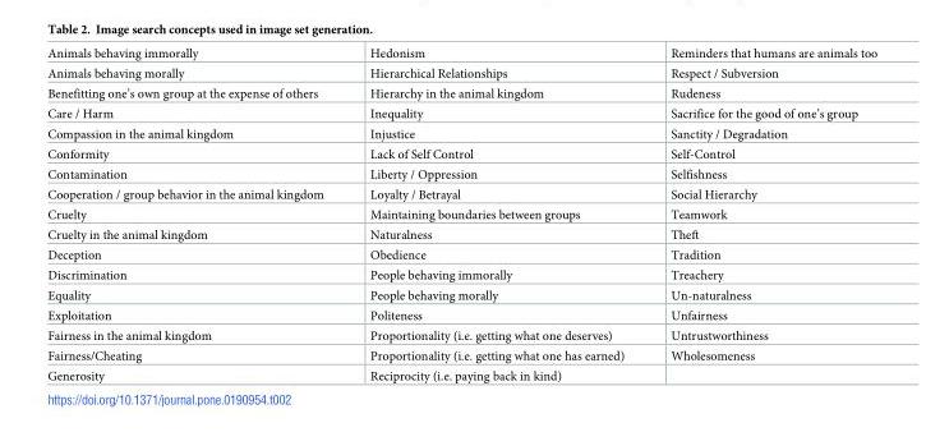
<table><tbody><tr><td>Animals behaving immorally</td><td>Hedonism</td><td>Reminders that humans are animals too</td></tr><tr><td>Animals behaving morally</td><td>Hierarchical Relationships</td><td>Respect / Subversion</td></tr><tr><td>Benefitting one’s own group at the expense of others</td><td>Hierarchy in the animal kingdom</td><td>Rudeness</td></tr><tr><td>Care / Harm</td><td>Inequality</td><td>Sacrifice for the good of one’s group</td></tr><tr><td>Compassion in the animal kingdom</td><td>Injustice</td><td>Sanctity / Degradation</td></tr><tr><td>Conformity</td><td>Lack of Self Control</td><td>Self-Control</td></tr><tr><td>Contamination</td><td>Liberty / Oppression</td><td>Selfishness</td></tr><tr><td>Cooperation / group behavior in the animal kingdom</td><td>Loyalty / Betrayal</td><td>Social Hierarchy</td></tr><tr><td>Cruelty</td><td>Maintaining boundaries between groups</td><td>Teamwork</td></tr><tr><td>Cruelty in the animal kingdom</td><td>Naturalness</td><td>Theft</td></tr><tr><td>Deception</td><td>Obedience</td><td>Tradition</td></tr><tr><td>Discrimination</td><td>People behaving immorally</td><td>Treachery</td></tr><tr><td>Equality</td><td>People behaving morally</td><td>Un-naturalness</td></tr><tr><td>Exploitation</td><td>Politeness</td><td>Unfairness</td></tr><tr><td>Fairness in the animal kingdom</td><td>Proportionality (i.e. getting what one deserves)</td><td>Untrustworthiness</td></tr><tr><td>Fairness/Cheating</td><td>Proportionality (i.e. getting what one has earned)</td><td>Wholesomeness</td></tr><tr><td>Generosity</td><td>Reciprocity (i.e. paying back in kind)</td><td></td></tr></tbody></table>